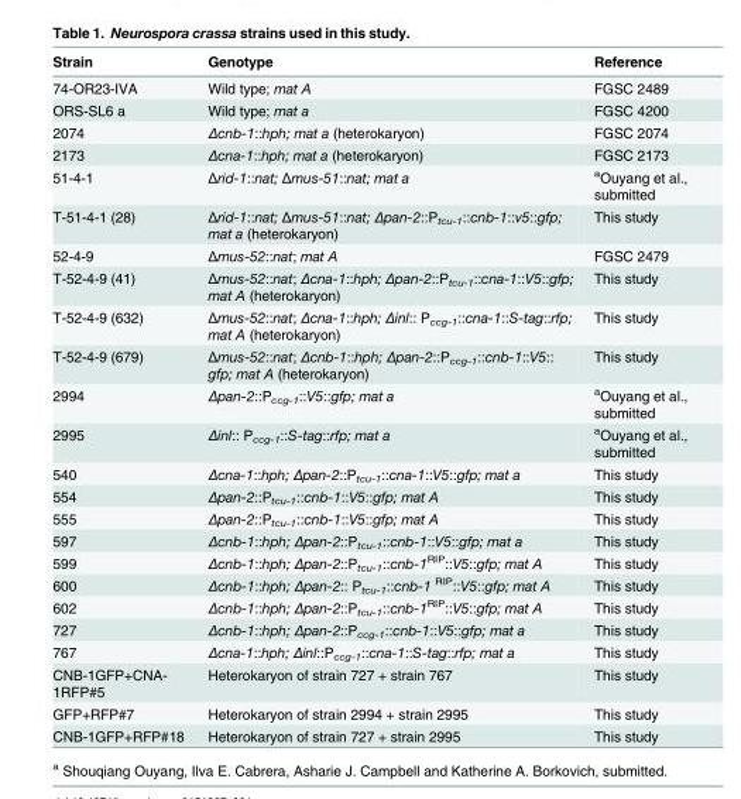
<table><thead><tr><td>Strain</td><td>Genotype</td><td>Reference</td></tr></thead><tbody><tr><td>74-OR23-IVA</td><td>Wild type; mat A</td><td>FGSC 2489</td></tr><tr><td>ORS-SL6 a</td><td>Wild type; mat a</td><td>FGSC 4200</td></tr><tr><td>2074</td><td>Δcnb-1::hph; mat a (heterokaryon)</td><td>FGSC 2074</td></tr><tr><td>2173</td><td>Δcna-1::hph; mat a (heterokaryon)</td><td>FGSC 2173</td></tr><tr><td>51-4-1</td><td>Δrid-1::nat; Δmus-51::nat; mat a</td><td><sup>a</sup>Ouyang et al., submitted</td></tr><tr><td>T-51-4-1 (28)</td><td>Δrid-1::nat; Δmus-51::nat; Δpan-2::Ptcu-1::cnb-1::v5::gfp; mat a (heterokaryon)</td><td>This study</td></tr><tr><td>52-4-9</td><td>Δmus-52::nat; mat A</td><td>FGSC 2479</td></tr><tr><td>T-52-4-9 (41)</td><td>Δmus-52::nat; Δcna-1::hph; Δpan-2::Ptcu-1::cna-1::V5::gfp; mat A (heterokaryon)</td><td>This study</td></tr><tr><td>T-52-4-9 (632)</td><td>Δmus-52::nat; Δcna-1::hph; Δinl:: Pccg-1::cna-1::S-tag::rfp; mat A (heterokaryon)</td><td>This study</td></tr><tr><td>T-52-4-9 (679)</td><td>Δmus-52::nat; Δcnb-1::hph; Δpan-2::Pccg-1::cnb-1::V5:: gfp; mat A (heterokaryon)</td><td>This study</td></tr><tr><td>2994</td><td>Δpan-2::Pccg-1::V5::gfp; mat a</td><td><sup>a</sup>Ouyang et al., submitted</td></tr><tr><td>2995</td><td>Δinl:: Pccg-1::S-tag::rfp; mat a</td><td><sup>a</sup>Ouyang et al., submitted</td></tr><tr><td>540</td><td>Δcna-1::hph; Δpan-2::Ptcu-1::cna-1::V5::gfp; mat a</td><td>This study</td></tr><tr><td>554</td><td>Δpan-2::Ptcu-1::cnb-1::V5::gfp; mat A</td><td>This study</td></tr><tr><td>555</td><td>Δpan-2::Ptcu-1::cnb-1::V5::gfp; mat A</td><td>This study</td></tr><tr><td>597</td><td>Δcnb-1::hph; Δpan-2::Ptcu-1::cnb-1::V5::gfp; mat a</td><td>This study</td></tr><tr><td>599</td><td>Δcnb-1::hph; Δpan-2::Ptcu-1::cnb-1RIP::V5::gfp; mat A</td><td>This study</td></tr><tr><td>600</td><td>Δcnb-1::hph; Δpan-2:: Ptcu-1::cnb-1 RIP::V5::gfp; mat A</td><td>This study</td></tr><tr><td>602</td><td>Δcnb-1::hph; Δpan-2::Ptcu-1::cnb-1RIP::V5::gfp; mat A</td><td>This study</td></tr><tr><td>727</td><td>Δcnb-1::hph; Δpan-2::Pccg-1::cnb-1::V5::gfp; mat a</td><td>This study</td></tr><tr><td>767</td><td>Δcna-1::hph; Δinl::Pccg-1::cna-1::S-tag::rfp; mat a</td><td>This study</td></tr><tr><td>CNB-1GFP+CNA- 1RFP#5</td><td>Heterokaryon of strain 727 + strain 767</td><td>This study</td></tr><tr><td>GFP+RFP#7</td><td>Heterokaryon of strain 2994 + strain 2995</td><td>This study</td></tr><tr><td>CNB-1GFP+RFP#18</td><td>Heterokaryon of strain 727 + strain 2995</td><td>This study</td></tr></tbody></table>